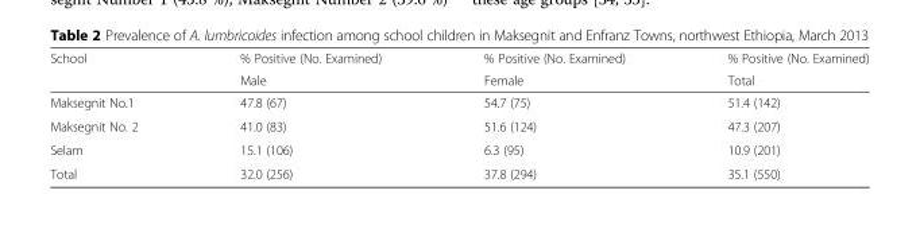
<table><thead><tr><td rowspan="2">School</td><td rowspan="2">% Positive (No. Examined) Male</td><td rowspan="2">% Positive (No. Examined) Female</td><td rowspan="2">% Positive (No. Examined) Total</td></tr><tr></tr></thead><tbody><tr><td>Maksegnit No.1</td><td>47.8 (67)</td><td>54.7 (75)</td><td>51.4 (142)</td></tr><tr><td>Maksegnit No. 2</td><td>41.0 (83)</td><td>51.6 (124)</td><td>47.3 (207)</td></tr><tr><td>Selam</td><td>15.1 (106)</td><td>6.3 (95)</td><td>10.9 (201)</td></tr><tr><td>Total</td><td>32.0 (256)</td><td>37.8 (294)</td><td>35.1 (550)</td></tr></tbody></table>